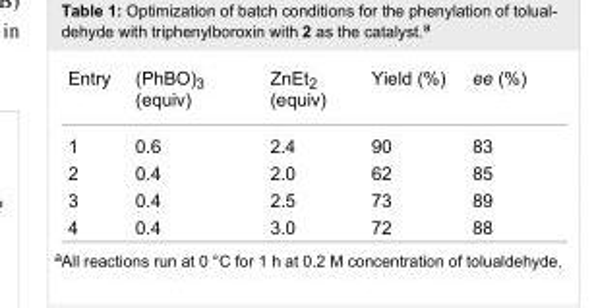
<table><tbody><tr><td>Entry</td><td>(PhBO)<sub>3</sub> (equiv)</td><td>ZnEt<sub>2</sub> (equiv)</td><td>Yield (%)</td><td>ee (%)</td></tr><tr><td>1</td><td>0.6</td><td>2.4</td><td>90</td><td>83</td></tr><tr><td>2</td><td>0.4</td><td>2.0</td><td>62</td><td>85</td></tr><tr><td>3</td><td>0.4</td><td>2.5</td><td>73</td><td>89</td></tr><tr><td>4</td><td>0.4</td><td>3.0</td><td>72</td><td>88</td></tr></tbody></table>